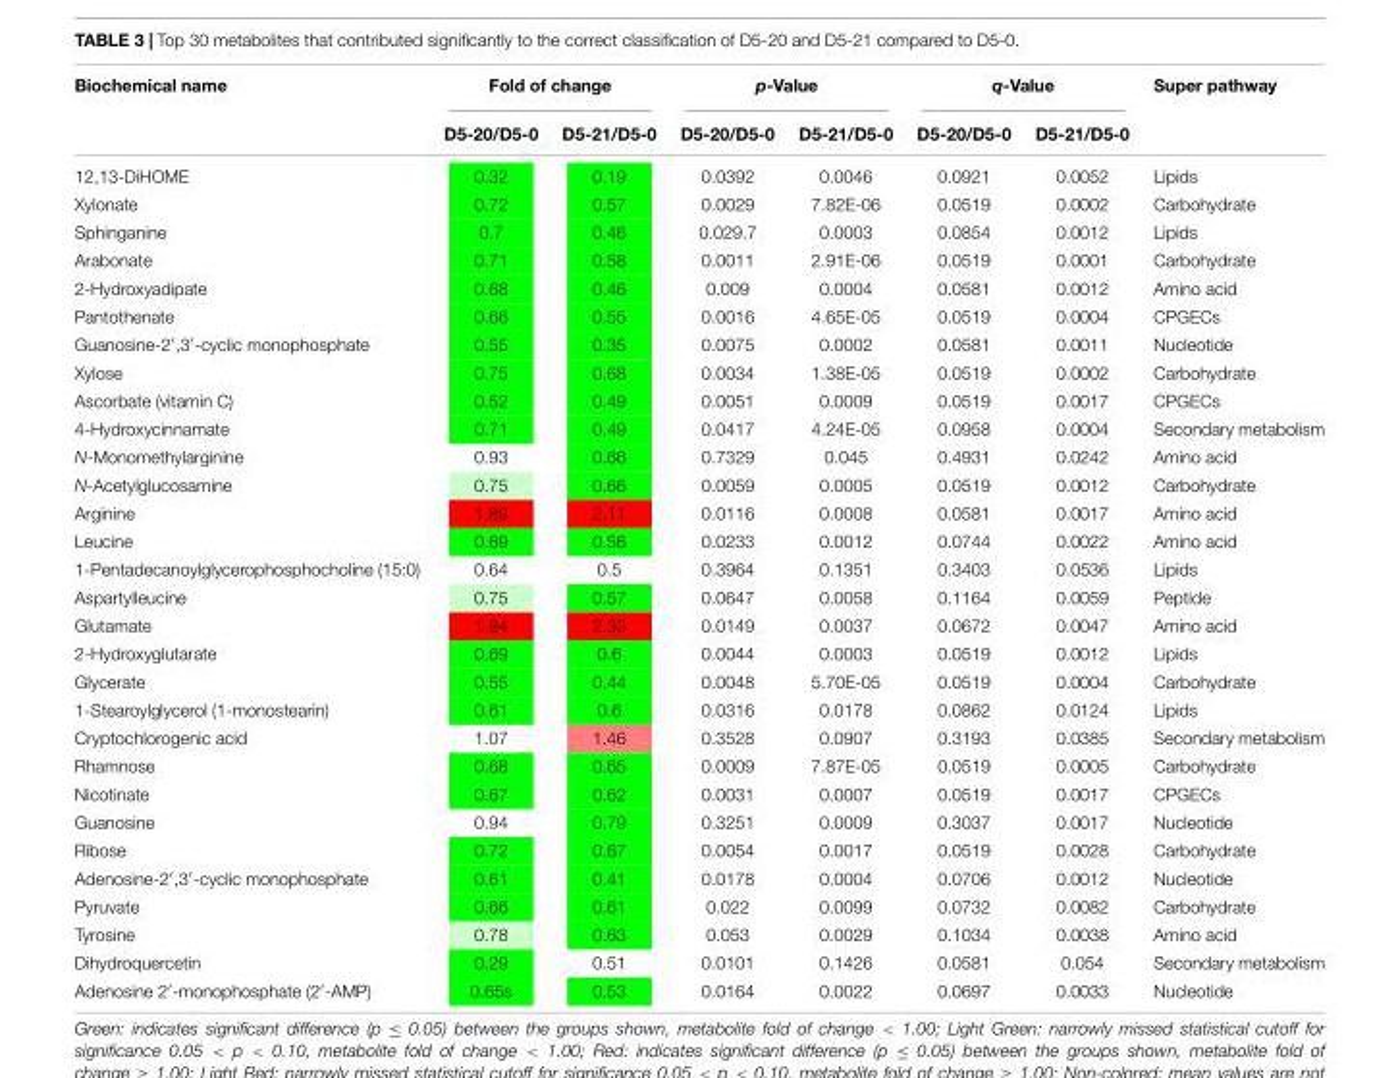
<table><thead><tr><td rowspan="2">Biochemical name</td><td colspan="2">Fold of change</td><td colspan="2">p-Value</td><td colspan="2">q-Value</td><td rowspan="2">Super pathway</td></tr><tr><td>D5-20/D5-0</td><td>D5-21/D5-0</td><td>D5-20/D5-0</td><td>D5-21/D5-0</td><td>D5-20/D5-0</td><td>D5-21/D5-0</td></tr></thead><tbody><tr><td>12,13-DiHOME</td><td>0.32</td><td>0.19</td><td>0.0392</td><td>0.0046</td><td>0.0921</td><td>0.0052</td><td>Lipids</td></tr><tr><td>Xylonate</td><td>0.72</td><td>0.57</td><td>0.0029</td><td>7.82E-06</td><td>0.0519</td><td>0.0002</td><td>Carbohydrate</td></tr><tr><td>Sphinganine</td><td>0.7</td><td>0.46</td><td>0.029.7</td><td>0.0003</td><td>0.0854</td><td>0.0012</td><td>Lipids</td></tr><tr><td>Arabonate</td><td>0.71</td><td>0.58</td><td>0.0011</td><td>2.91E-06</td><td>0.0519</td><td>0.0001</td><td>Carbohydrate</td></tr><tr><td>2-Hydroxyadipate</td><td>0.68</td><td>0.46</td><td>0.009</td><td>0.0004</td><td>0.0581</td><td>0.0012</td><td>Amino acid</td></tr><tr><td>Pantothenate</td><td>0.66</td><td>0.55</td><td>0.0016</td><td>4.65E-05</td><td>0.0519</td><td>0.0004</td><td>CPGECs</td></tr><tr><td>Guanosine-2′,3′-cyclic monophosphate</td><td>0.55</td><td>0.35</td><td>0.0075</td><td>0.0002</td><td>0.0581</td><td>0.0011</td><td>Nucleotide</td></tr><tr><td>Xylose</td><td>0.75</td><td>0.68</td><td>0.0034</td><td>1.38E-05</td><td>0.0519</td><td>0.0002</td><td>Carbohydrate</td></tr><tr><td>Ascorbate (vitamin C)</td><td>0.52</td><td>0.49</td><td>0.0051</td><td>0.0009</td><td>0.0519</td><td>0.0017</td><td>CPGECs</td></tr><tr><td>4-Hydroxycinnamate</td><td>0.71</td><td>0.49</td><td>0.0417</td><td>4.24E-05</td><td>0.0958</td><td>0.0004</td><td>Secondary metabolism</td></tr><tr><td>N-Monomethylarginine</td><td>0.93</td><td>0.66</td><td>0.7329</td><td>0.045</td><td>0.4931</td><td>0.0242</td><td>Amino acid</td></tr><tr><td>N-Acetylglucosamine</td><td>0.75</td><td>0.66</td><td>0.0059</td><td>0.0005</td><td>0.0519</td><td>0.0012</td><td>Carbohydrate</td></tr><tr><td>Arginine</td><td>1.89</td><td>2.11</td><td>0.0116</td><td>0.0008</td><td>0.0581</td><td>0.0017</td><td>Amino acid</td></tr><tr><td>Leucine</td><td>0.69</td><td>0.56</td><td>0.0233</td><td>0.0012</td><td>0.0744</td><td>0.0022</td><td>Amino acid</td></tr><tr><td>1-Pentadecanoylglycerophosphocholine (15:0)</td><td>0.64</td><td>0.5</td><td>0.3964</td><td>0.1351</td><td>0.3403</td><td>0.0536</td><td>Lipids</td></tr><tr><td>Aspartylleucine</td><td>0.75</td><td>0.57</td><td>0.0647</td><td>0.0058</td><td>0.1164</td><td>0.0059</td><td>Peptide</td></tr><tr><td>Glutamate</td><td>1.84</td><td>2.33</td><td>0.0149</td><td>0.0037</td><td>0.0672</td><td>0.0047</td><td>Amino acid</td></tr><tr><td>2-Hydroxyglutarate</td><td>0.69</td><td>0.6</td><td>0.0044</td><td>0.0003</td><td>0.0519</td><td>0.0012</td><td>Lipids</td></tr><tr><td>Glycerate</td><td>0.55</td><td>0.44</td><td>0.0048</td><td>5.70E-05</td><td>0.0519</td><td>0.0004</td><td>Carbohydrate</td></tr><tr><td>1-Stearoylglycerol (1-monostearin)</td><td>0.61</td><td>0.6</td><td>0.0316</td><td>0.0178</td><td>0.0862</td><td>0.0124</td><td>Lipids</td></tr><tr><td>Cryptochlorogenic acid</td><td>1.07</td><td>1.46</td><td>0.3528</td><td>0.0907</td><td>0.3193</td><td>0.0385</td><td>Secondary metabolism</td></tr><tr><td>Rhamnose</td><td>0.68</td><td>0.65</td><td>0.0009</td><td>7.87E-05</td><td>0.0519</td><td>0.0005</td><td>Carbohydrate</td></tr><tr><td>Nicotinate</td><td>0.67</td><td>0.62</td><td>0.0031</td><td>0.0007</td><td>0.0519</td><td>0.0017</td><td>CPGECs</td></tr><tr><td>Guanosine</td><td>0.94</td><td>0.79</td><td>0.3251</td><td>0.0009</td><td>0.3037</td><td>0.0017</td><td>Nucleotide</td></tr><tr><td>Ribose</td><td>0.72</td><td>0.67</td><td>0.0054</td><td>0.0017</td><td>0.0519</td><td>0.0028</td><td>Carbohydrate</td></tr><tr><td>Adenosine-2′,3′-cyclic monophosphate</td><td>0.61</td><td>0.41</td><td>0.0178</td><td>0.0004</td><td>0.0706</td><td>0.0012</td><td>Nucleotide</td></tr><tr><td>Pyruvate</td><td>0.66</td><td>0.61</td><td>0.022</td><td>0.0099</td><td>0.0732</td><td>0.0082</td><td>Carbohydrate</td></tr><tr><td>Tyrosine</td><td>0.78</td><td>0.63</td><td>0.053</td><td>0.0029</td><td>0.1034</td><td>0.0038</td><td>Amino acid</td></tr><tr><td>Dihydroquercetin</td><td>0.29</td><td>0.51</td><td>0.0101</td><td>0.1426</td><td>0.0581</td><td>0.054</td><td>Secondary metabolism</td></tr><tr><td>Adenosine 2′-monophosphate (2′-AMP)</td><td>0.65s</td><td>0.53</td><td>0.0164</td><td>0.0022</td><td>0.0697</td><td>0.0033</td><td>Nucleotide</td></tr></tbody></table>